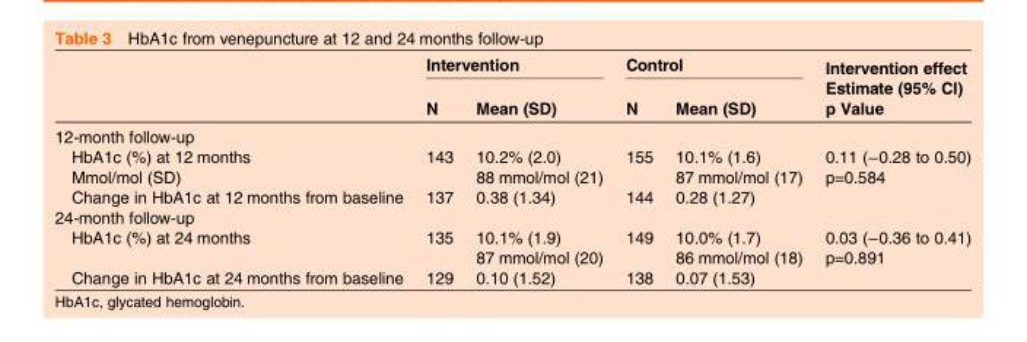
<table><thead><tr><td rowspan="2"></td><td colspan="2">Intervention</td><td colspan="2">Control</td><td rowspan="2">Intervention effect Estimate (95% CI) p Value</td></tr><tr><td>N</td><td>Mean (SD)</td><td>N</td><td>Mean (SD)</td></tr></thead><tbody><tr><td colspan="6">12-month follow-up</td></tr><tr><td>HbA1c (%) at 12 months Mmol/mol (SD)</td><td>143</td><td>10.2% (2.0) 88 mmol/mol (21)</td><td>155</td><td>10.1% (1.6) 87 mmol/mol (17)</td><td rowspan="2">0.11 (−0.28 to 0.50) p=0.584</td></tr><tr><td>Change in HbA1c at 12 months from baseline</td><td>137</td><td>0.38 (1.34)</td><td>144</td><td>0.28 (1.27)</td></tr><tr><td colspan="6">24-month follow-up</td></tr><tr><td>HbA1c (%) at 24 months</td><td>135</td><td>10.1% (1.9) 87 mmol/mol (20)</td><td>149</td><td>10.0% (1.7) 86 mmol/mol (18)</td><td rowspan="2">0.03 (−0.36 to 0.41) p=0.891</td></tr><tr><td>Change in HbA1c at 24 months from baseline</td><td>129</td><td>0.10 (1.52)</td><td>138</td><td>0.07 (1.53)</td></tr></tbody></table>